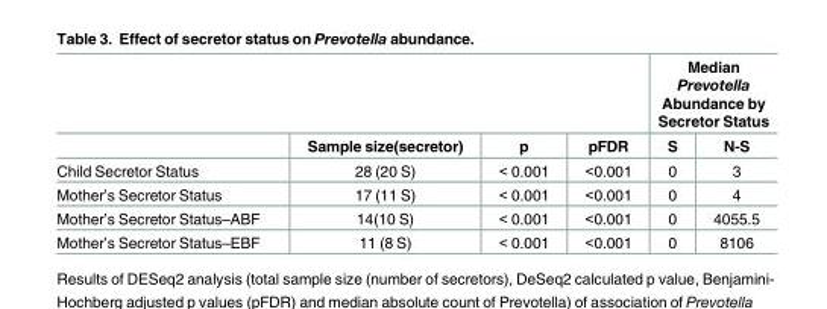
<table><thead><tr><td rowspan="2"></td><td rowspan="2">Sample size(secretor)</td><td rowspan="2">p</td><td rowspan="2">pFDR</td><td colspan="2">Median Prevotella Abundance by Secretor Status</td></tr><tr><td>S</td><td>N-S</td></tr></thead><tbody><tr><td>Child Secretor Status</td><td>28 (20 S)</td><td>&lt; 0.001</td><td>&lt;0.001</td><td>0</td><td>3</td></tr><tr><td>Mother’s Secretor Status</td><td>17 (11 S)</td><td>&lt; 0.001</td><td>&lt;0.001</td><td>0</td><td>4</td></tr><tr><td>Mother’s Secretor Status–ABF</td><td>14(10 S)</td><td>&lt; 0.001</td><td>&lt;0.001</td><td>0</td><td>4055.5</td></tr><tr><td>Mother’s Secretor Status–EBF</td><td>11 (8 S)</td><td>&lt; 0.001</td><td>&lt;0.001</td><td>0</td><td>8106</td></tr></tbody></table>